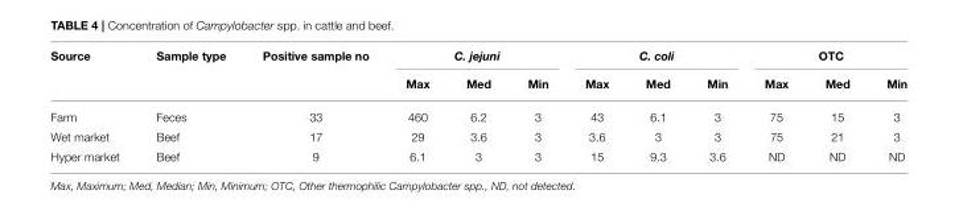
<table><thead><tr><td rowspan="2">Source</td><td rowspan="2">Sample type</td><td rowspan="2">Positive sample no</td><td colspan="3">C. jejuni</td><td colspan="3">C. coli</td><td colspan="3">OTC</td></tr><tr><td>Max</td><td>Med</td><td>Min</td><td>Max</td><td>Med</td><td>Min</td><td>Max</td><td>Med</td><td>Min</td></tr></thead><tbody><tr><td>Farm</td><td>Feces</td><td>33</td><td>460</td><td>6.2</td><td>3</td><td>43</td><td>6.1</td><td>3</td><td>75</td><td>15</td><td>3</td></tr><tr><td>Wet market</td><td>Beef</td><td>17</td><td>29</td><td>3.6</td><td>3</td><td>3.6</td><td>3</td><td>3</td><td>75</td><td>21</td><td>3</td></tr><tr><td>Hyper market</td><td>Beef</td><td>9</td><td>6.1</td><td>3</td><td>3</td><td>15</td><td>9.3</td><td>3.6</td><td>ND</td><td>ND</td><td>ND</td></tr></tbody></table>